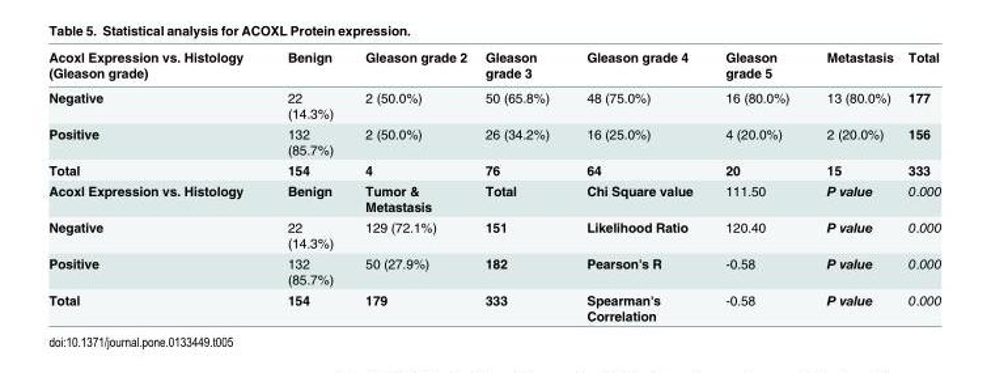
<table><thead><tr><td>Acoxl Expression vs. Histology (Gleason grade)</td><td>Benign</td><td>Gleason grade 2</td><td>Gleason grade 3</td><td>Gleason grade 4</td><td>Gleason grade 5</td><td>Metastasis</td><td>Total</td></tr></thead><tbody><tr><td>Negative</td><td>22 (14.3%)</td><td>2 (50.0%)</td><td>50 (65.8%)</td><td>48 (75.0%)</td><td>16 (80.0%)</td><td>13 (80.0%)</td><td>177</td></tr><tr><td>Positive</td><td>132 (85.7%)</td><td>2 (50.0%)</td><td>26 (34.2%)</td><td>16 (25.0%)</td><td>4 (20.0%)</td><td>2 (20.0%)</td><td>156</td></tr><tr><td>Total</td><td>154</td><td>4</td><td>76</td><td>64</td><td>20</td><td>15</td><td>333</td></tr><tr><td>Acoxl Expression vs. Histology</td><td>Benign</td><td>Tumor &amp; Metastasis</td><td>Total</td><td>Chi Square value</td><td>111.50</td><td>P value</td><td>0.000</td></tr><tr><td>Negative</td><td>22 (14.3%)</td><td>129 (72.1%)</td><td>151</td><td>Likelihood Ratio</td><td>120.40</td><td>P value</td><td>0.000</td></tr><tr><td>Positive</td><td>132 (85.7%)</td><td>50 (27.9%)</td><td>182</td><td>Pearson&#x27;s R</td><td>-0.58</td><td>P value</td><td>0.000</td></tr><tr><td>Total</td><td>154</td><td>179</td><td>333</td><td>Spearman&#x27;s Correlation</td><td>-0.58</td><td>P value</td><td>0.000</td></tr></tbody></table>